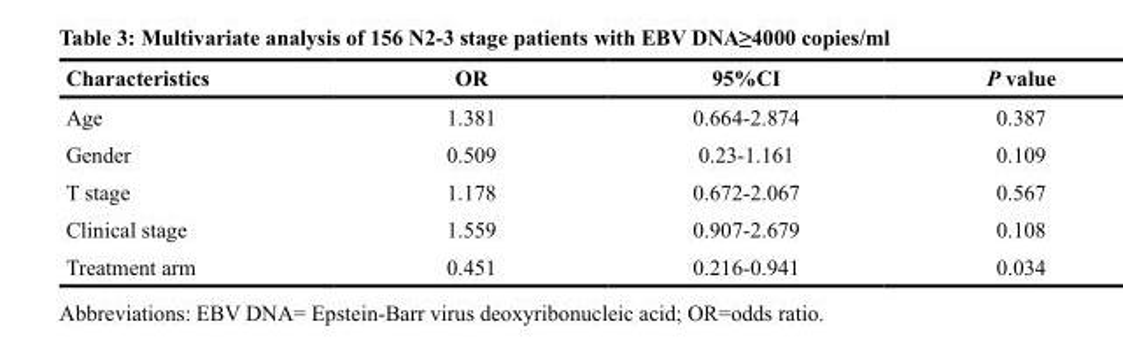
<table><thead><tr><td>Characteristics</td><td>OR</td><td>95%CI</td><td>P value</td></tr></thead><tbody><tr><td>Age</td><td>1.381</td><td>0.664-2.874</td><td>0.387</td></tr><tr><td>Gender</td><td>0.509</td><td>0.23-1.161</td><td>0.109</td></tr><tr><td>T stage</td><td>1.178</td><td>0.672-2.067</td><td>0.567</td></tr><tr><td>Clinical stage</td><td>1.559</td><td>0.907-2.679</td><td>0.108</td></tr><tr><td>Treatment arm</td><td>0.451</td><td>0.216-0.941</td><td>0.034</td></tr></tbody></table>